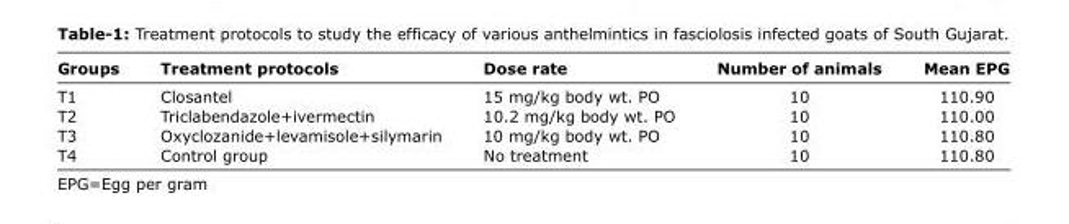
<table><thead><tr><td>Groups</td><td>Treatment protocols</td><td>Dose rate</td><td>Number of animals</td><td>Mean EPG</td></tr></thead><tbody><tr><td>T1</td><td>Closantel</td><td>15 mg/kg body wt. PO</td><td>10</td><td>110.90</td></tr><tr><td>T2</td><td>Triclabendazole+ivermectin</td><td>10.2 mg/kg body wt. PO</td><td>10</td><td>110.00</td></tr><tr><td>T3</td><td>Oxyclozanide+levamisole+silymarin</td><td>10 mg/kg body wt. PO</td><td>10</td><td>110.80</td></tr><tr><td>T4</td><td>Control group</td><td>No treatment</td><td>10</td><td>110.80</td></tr></tbody></table>